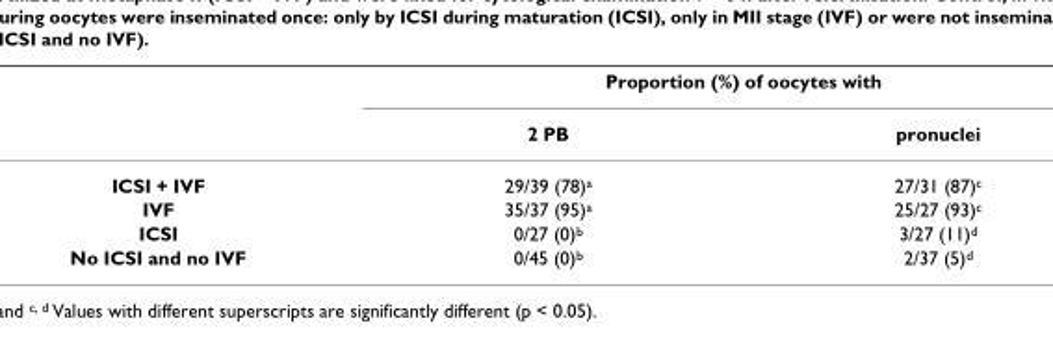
<table><thead><tr><td rowspan="2"></td><td colspan="2">Proportion (%) of oocytes with</td></tr><tr><td>2 PB</td><td>pronuclei</td></tr></thead><tbody><tr><td>ICSI + IVF</td><td>29/39 (78)<sup>a</sup></td><td>27/31 (87)<sup>c</sup></td></tr><tr><td>IVF</td><td>35/37 (95)<sup>a</sup></td><td>25/27 (93)<sup>c</sup></td></tr><tr><td>ICSI</td><td>0/27 (0)<sup>b</sup></td><td>3/27 (11)<sup>d</sup></td></tr><tr><td>No ICSI and no IVF</td><td>0/45 (0)<sup>b</sup></td><td>2/37 (5)<sup>d</sup></td></tr></tbody></table>